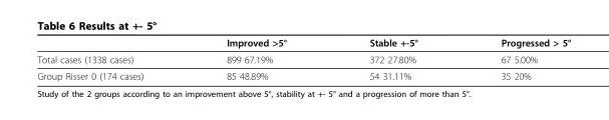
<table><thead><tr><td></td><td>Improved &gt;5°</td><td>Stable +-5°</td><td>Progressed &gt; 5°</td></tr></thead><tbody><tr><td>Total cases (1338 cases)</td><td>899 67.19%</td><td>372 27.80%</td><td>67 5.00%</td></tr><tr><td>Group Risser 0 (174 cases)</td><td>85 48.89%</td><td>54 31.11%</td><td>35 20%</td></tr></tbody></table>